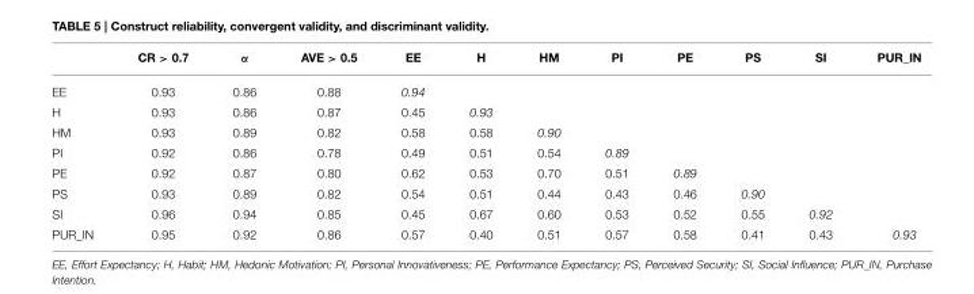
<table><thead><tr><td></td><td>CR &gt; 0.7</td><td>α</td><td>AVE &gt; 0.5</td><td>EE</td><td>H</td><td>HM</td><td>PI</td><td>PE</td><td>PS</td><td>SI</td><td>PUR_IN</td></tr></thead><tbody><tr><td>EE</td><td>0.93</td><td>0.86</td><td>0.88</td><td>0.94</td><td></td><td></td><td></td><td></td><td></td><td></td><td></td></tr><tr><td>H</td><td>0.93</td><td>0.86</td><td>0.87</td><td>0.45</td><td>0.93</td><td></td><td></td><td></td><td></td><td></td><td></td></tr><tr><td>HM</td><td>0.93</td><td>0.89</td><td>0.82</td><td>0.58</td><td>0.58</td><td>0.90</td><td></td><td></td><td></td><td></td><td></td></tr><tr><td>PI</td><td>0.92</td><td>0.86</td><td>0.78</td><td>0.49</td><td>0.51</td><td>0.54</td><td>0.89</td><td></td><td></td><td></td><td></td></tr><tr><td>PE</td><td>0.92</td><td>0.87</td><td>0.80</td><td>0.62</td><td>0.53</td><td>0.70</td><td>0.51</td><td>0.89</td><td></td><td></td><td></td></tr><tr><td>PS</td><td>0.93</td><td>0.89</td><td>0.82</td><td>0.54</td><td>0.51</td><td>0.44</td><td>0.43</td><td>0.46</td><td>0.90</td><td></td><td></td></tr><tr><td>SI</td><td>0.96</td><td>0.94</td><td>0.85</td><td>0.45</td><td>0.67</td><td>0.60</td><td>0.53</td><td>0.52</td><td>0.55</td><td>0.92</td><td></td></tr><tr><td>PUR_IN</td><td>0.95</td><td>0.92</td><td>0.86</td><td>0.57</td><td>0.40</td><td>0.51</td><td>0.57</td><td>0.58</td><td>0.41</td><td>0.43</td><td>0.93</td></tr></tbody></table>